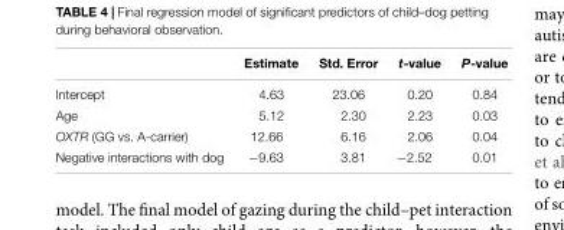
<table><thead><tr><td></td><td>Estimate</td><td>Std. Error</td><td>t-value</td><td>P-value</td></tr></thead><tbody><tr><td>Intercept</td><td>4.63</td><td>23.06</td><td>0.20</td><td>0.84</td></tr><tr><td>Age</td><td>5.12</td><td>2.30</td><td>2.23</td><td>0.03</td></tr><tr><td>OXTR (GG vs. A-carrier)</td><td>12.66</td><td>6.16</td><td>2.06</td><td>0.04</td></tr><tr><td>Negative interactions with dog</td><td>−9.63</td><td>3.81</td><td>−2.52</td><td>0.01</td></tr></tbody></table>